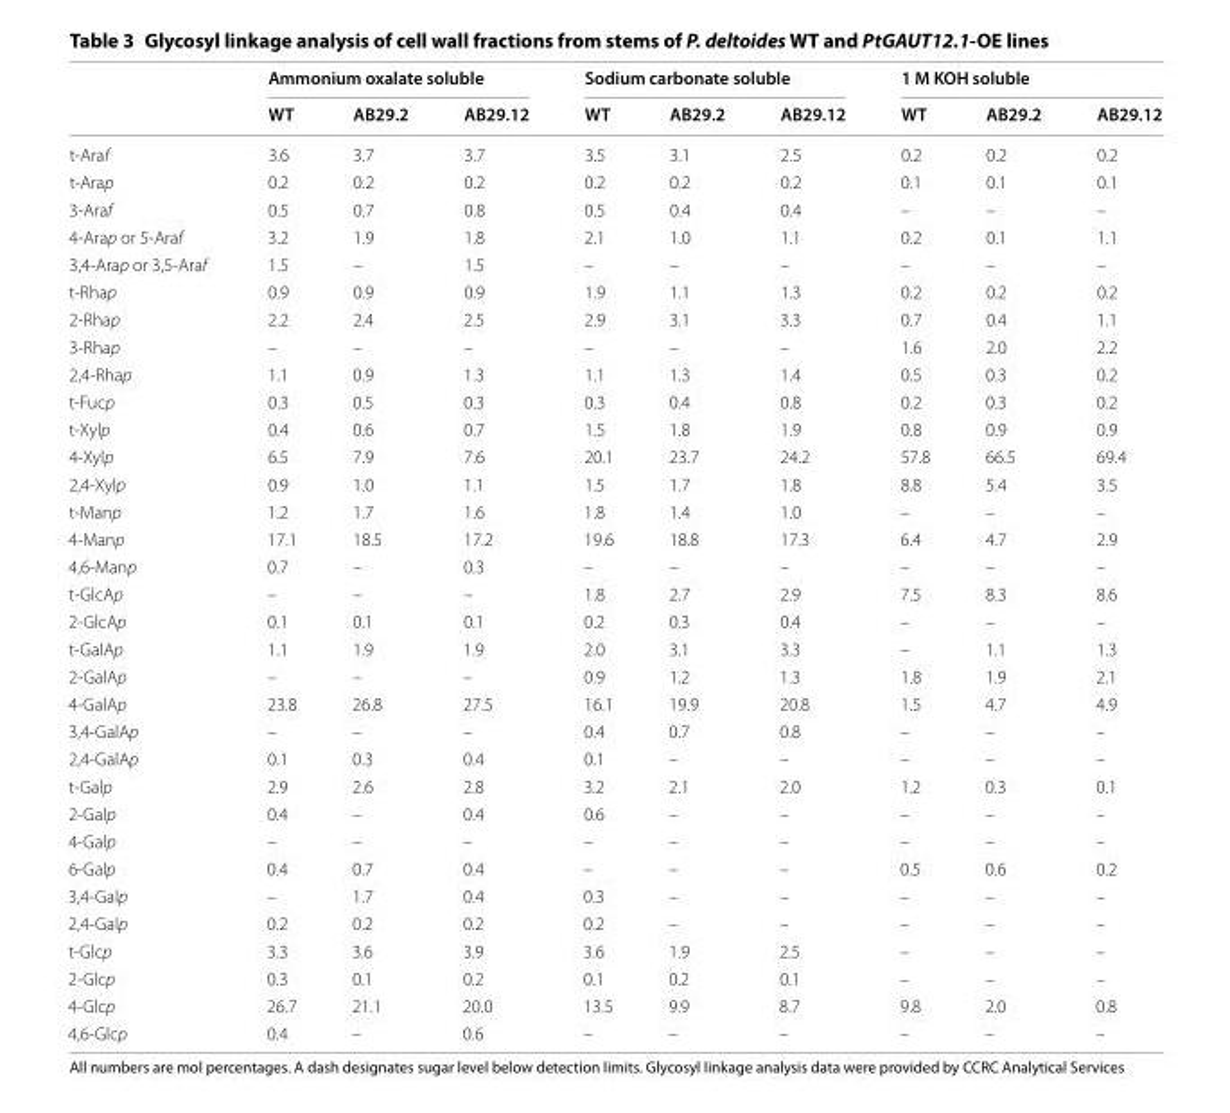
<table><thead><tr><td rowspan="2"></td><td colspan="3">Ammonium oxalate soluble</td><td colspan="3">Sodium carbonate soluble</td><td colspan="3">1 M KOH soluble</td></tr><tr><td>WT</td><td>AB29.2</td><td>AB29.12</td><td>WT</td><td>AB29.2</td><td>AB29.12</td><td>WT</td><td>AB29.2</td><td>AB29.12</td></tr></thead><tbody><tr><td>t‑Araf</td><td>3.6</td><td>3.7</td><td>3.7</td><td>3.5</td><td>3.1</td><td>2.5</td><td>0.2</td><td>0.2</td><td>0.2</td></tr><tr><td>t‑Arap</td><td>0.2</td><td>0.2</td><td>0.2</td><td>0.2</td><td>0.2</td><td>0.2</td><td>0.1</td><td>0.1</td><td>0.1</td></tr><tr><td>3‑Araf</td><td>0.5</td><td>0.7</td><td>0.8</td><td>0.5</td><td>0.4</td><td>0.4</td><td>–</td><td>–</td><td>–</td></tr><tr><td>4‑Arap or 5‑Araf</td><td>3.2</td><td>1.9</td><td>1.8</td><td>2.1</td><td>1.0</td><td>1.1</td><td>0.2</td><td>0.1</td><td>1.1</td></tr><tr><td>3,4‑Arap or 3,5‑Araf</td><td>1.5</td><td>–</td><td>1.5</td><td>–</td><td>–</td><td>–</td><td>–</td><td>–</td><td>–</td></tr><tr><td>t‑Rhap</td><td>0.9</td><td>0.9</td><td>0.9</td><td>1.9</td><td>1.1</td><td>1.3</td><td>0.2</td><td>0.2</td><td>0.2</td></tr><tr><td>2‑Rhap</td><td>2.2</td><td>2.4</td><td>2.5</td><td>2.9</td><td>3.1</td><td>3.3</td><td>0.7</td><td>0.4</td><td>1.1</td></tr><tr><td>3‑Rhap</td><td>–</td><td>–</td><td>–</td><td>–</td><td>–</td><td>–</td><td>1.6</td><td>2.0</td><td>2.2</td></tr><tr><td>2,4‑Rhap</td><td>1.1</td><td>0.9</td><td>1.3</td><td>1.1</td><td>1.3</td><td>1.4</td><td>0.5</td><td>0.3</td><td>0.2</td></tr><tr><td>t‑Fucp</td><td>0.3</td><td>0.5</td><td>0.3</td><td>0.3</td><td>0.4</td><td>0.8</td><td>0.2</td><td>0.3</td><td>0.2</td></tr><tr><td>t‑Xylp</td><td>0.4</td><td>0.6</td><td>0.7</td><td>1.5</td><td>1.8</td><td>1.9</td><td>0.8</td><td>0.9</td><td>0.9</td></tr><tr><td>4‑Xylp</td><td>6.5</td><td>7.9</td><td>7.6</td><td>20.1</td><td>23.7</td><td>24.2</td><td>57.8</td><td>66.5</td><td>69.4</td></tr><tr><td>2,4‑Xylp</td><td>0.9</td><td>1.0</td><td>1.1</td><td>1.5</td><td>1.7</td><td>1.8</td><td>8.8</td><td>5.4</td><td>3.5</td></tr><tr><td>t‑Manp</td><td>1.2</td><td>1.7</td><td>1.6</td><td>1.8</td><td>1.4</td><td>1.0</td><td>–</td><td>–</td><td>–</td></tr><tr><td>4‑Manp</td><td>17.1</td><td>18.5</td><td>17.2</td><td>19.6</td><td>18.8</td><td>17.3</td><td>6.4</td><td>4.7</td><td>2.9</td></tr><tr><td>4,6‑Manp</td><td>0.7</td><td>–</td><td>0.3</td><td>–</td><td>–</td><td>–</td><td>–</td><td>–</td><td>–</td></tr><tr><td>t‑GlcAp</td><td>–</td><td>–</td><td>–</td><td>1.8</td><td>2.7</td><td>2.9</td><td>7.5</td><td>8.3</td><td>8.6</td></tr><tr><td>2‑GlcAp</td><td>0.1</td><td>0.1</td><td>0.1</td><td>0.2</td><td>0.3</td><td>0.4</td><td>–</td><td>–</td><td>–</td></tr><tr><td>t‑GalAp</td><td>1.1</td><td>1.9</td><td>1.9</td><td>2.0</td><td>3.1</td><td>3.3</td><td>–</td><td>1.1</td><td>1.3</td></tr><tr><td>2‑GalAp</td><td>–</td><td>–</td><td>–</td><td>0.9</td><td>1.2</td><td>1.3</td><td>1.8</td><td>1.9</td><td>2.1</td></tr><tr><td>4‑GalAp</td><td>23.8</td><td>26.8</td><td>27.5</td><td>16.1</td><td>19.9</td><td>20.8</td><td>1.5</td><td>4.7</td><td>4.9</td></tr><tr><td>3,4‑GalAp</td><td>–</td><td>–</td><td>–</td><td>0.4</td><td>0.7</td><td>0.8</td><td>–</td><td>–</td><td>–</td></tr><tr><td>2,4‑GalAp</td><td>0.1</td><td>0.3</td><td>0.4</td><td>0.1</td><td>–</td><td>–</td><td>–</td><td>–</td><td>–</td></tr><tr><td>t‑Galp</td><td>2.9</td><td>2.6</td><td>2.8</td><td>3.2</td><td>2.1</td><td>2.0</td><td>1.2</td><td>0.3</td><td>0.1</td></tr><tr><td>2‑Galp</td><td>0.4</td><td>–</td><td>0.4</td><td>0.6</td><td>–</td><td>–</td><td>–</td><td>–</td><td>–</td></tr><tr><td>4‑Galp</td><td>–</td><td>–</td><td>–</td><td>–</td><td>–</td><td>–</td><td>–</td><td>–</td><td>–</td></tr><tr><td>6‑Galp</td><td>0.4</td><td>0.7</td><td>0.4</td><td>–</td><td>–</td><td>–</td><td>0.5</td><td>0.6</td><td>0.2</td></tr><tr><td>3,4‑Galp</td><td>–</td><td>1.7</td><td>0.4</td><td>0.3</td><td>–</td><td>–</td><td>–</td><td>–</td><td>–</td></tr><tr><td>2,4‑Galp</td><td>0.2</td><td>0.2</td><td>0.2</td><td>0.2</td><td>–</td><td>–</td><td>–</td><td>–</td><td>–</td></tr><tr><td>t‑Glcp</td><td>3.3</td><td>3.6</td><td>3.9</td><td>3.6</td><td>1.9</td><td>2.5</td><td>–</td><td>–</td><td>–</td></tr><tr><td>2‑Glcp</td><td>0.3</td><td>0.1</td><td>0.2</td><td>0.1</td><td>0.2</td><td>0.1</td><td>–</td><td>–</td><td>–</td></tr><tr><td>4‑Glcp</td><td>26.7</td><td>21.1</td><td>20.0</td><td>13.5</td><td>9.9</td><td>8.7</td><td>9.8</td><td>2.0</td><td>0.8</td></tr><tr><td>4,6‑Glcp</td><td>0.4</td><td>–</td><td>0.6</td><td>–</td><td>–</td><td>–</td><td>–</td><td>–</td><td>–</td></tr></tbody></table>